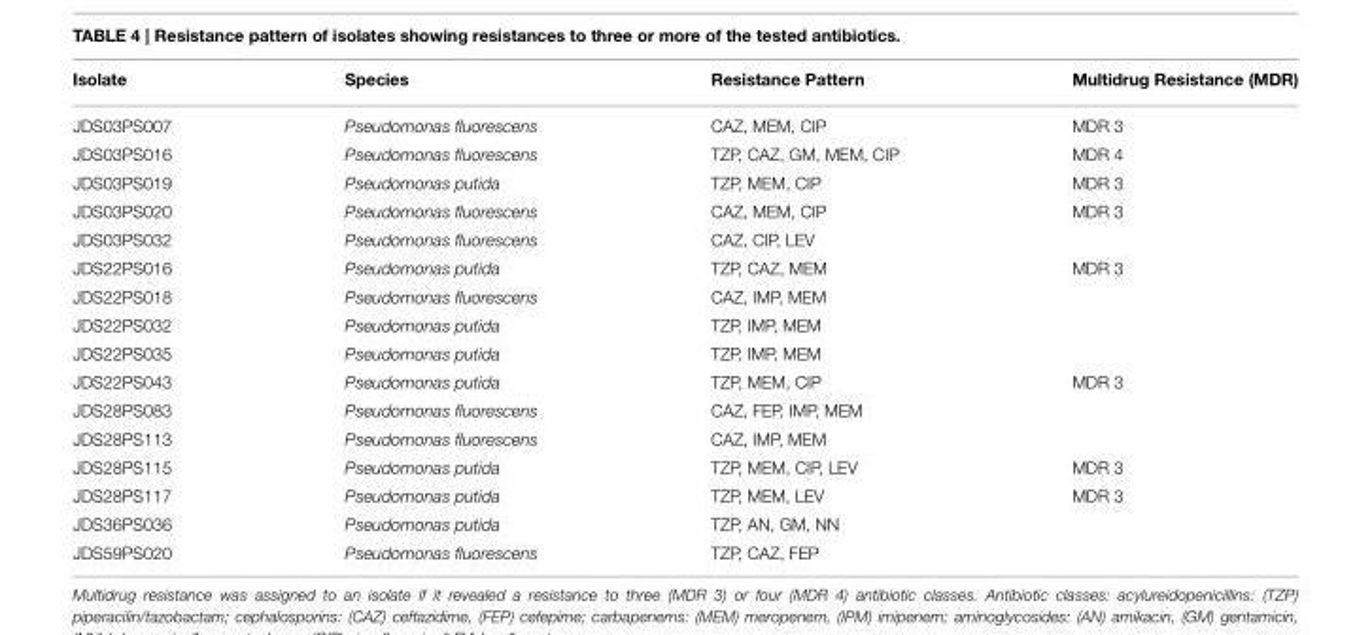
<table><thead><tr><td>Isolate</td><td>Species</td><td>Resistance Pattern</td><td>Multidrug Resistance (MDR)</td></tr></thead><tbody><tr><td>JDS03PS007</td><td>Pseudomonas fluorescens</td><td>CAZ, MEM, CIP</td><td>MDR 3</td></tr><tr><td>JDS03PS016</td><td>Pseudomonas fluorescens</td><td>TZP, CAZ, GM, MEM, CIP</td><td>MDR 4</td></tr><tr><td>JDS03PS019</td><td>Pseudomonas putida</td><td>TZP, MEM, CIP</td><td>MDR 3</td></tr><tr><td>JDS03PS020</td><td>Pseudomonas fluorescens</td><td>CAZ, MEM, CIP</td><td>MDR 3</td></tr><tr><td>JDS03PS032</td><td>Pseudomonas fluorescens</td><td>CAZ, CIP, LEV</td><td></td></tr><tr><td>JDS22PS016</td><td>Pseudomonas putida</td><td>TZP, CAZ, MEM</td><td>MDR 3</td></tr><tr><td>JDS22PS018</td><td>Pseudomonas fluorescens</td><td>CAZ, IMP, MEM</td><td></td></tr><tr><td>JDS22PS032</td><td>Pseudomonas putida</td><td>TZP, IMP, MEM</td><td></td></tr><tr><td>JDS22PS035</td><td>Pseudomonas putida</td><td>TZP, IMP, MEM</td><td></td></tr><tr><td>JDS22PS043</td><td>Pseudomonas putida</td><td>TZP, MEM, CIP</td><td>MDR 3</td></tr><tr><td>JDS28PS083</td><td>Pseudomonas fluorescens</td><td>CAZ, FEP, IMP, MEM</td><td></td></tr><tr><td>JDS28PS113</td><td>Pseudomonas fluorescens</td><td>CAZ, IMP, MEM</td><td></td></tr><tr><td>JDS28PS115</td><td>Pseudomonas putida</td><td>TZP, MEM, CIP, LEV</td><td>MDR 3</td></tr><tr><td>JDS28PS117</td><td>Pseudomonas putida</td><td>TZP, MEM, LEV</td><td>MDR 3</td></tr><tr><td>JDS36PS036</td><td>Pseudomonas putida</td><td>TZP, AN, GM, NN</td><td></td></tr><tr><td>JDS59PS020</td><td>Pseudomonas fluorescens</td><td>TZP, CAZ, FEP</td><td></td></tr></tbody></table>